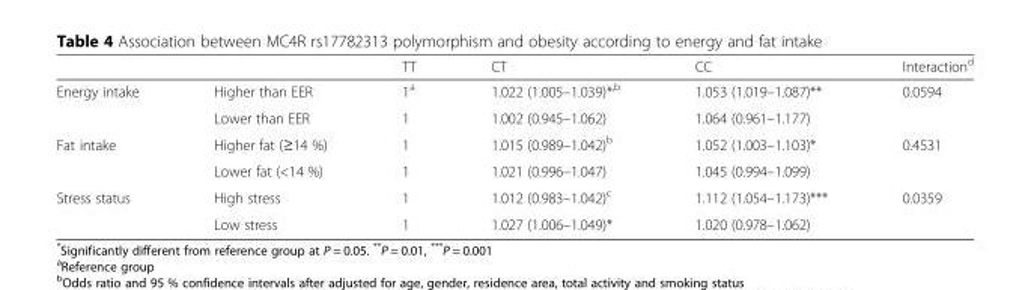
<table><thead><tr><td></td><td></td><td>TT</td><td>CT</td><td>CC</td><td>Interaction<sup>d</sup></td></tr></thead><tbody><tr><td rowspan="2">Energy intake</td><td>Higher than EER</td><td>1<sup>a</sup></td><td>1.022 (1.005–1.039)*<sup>,b</sup></td><td>1.053 (1.019–1.087)**</td><td rowspan="2">0.0594</td></tr><tr><td>Lower than EER</td><td>1</td><td>1.002 (0.945–1.062)</td><td>1.064 (0.961–1.177)</td></tr><tr><td rowspan="2">Fat intake</td><td>Higher fat (≥14 %)</td><td>1</td><td>1.015 (0.989–1.042)<sup>b</sup></td><td>1.052 (1.003–1.103)*</td><td rowspan="2">0.4531</td></tr><tr><td>Lower fat (&lt;14 %)</td><td>1</td><td>1.021 (0.996–1.047)</td><td>1.045 (0.994–1.099)</td></tr><tr><td rowspan="2">Stress status</td><td>High stress</td><td>1</td><td>1.012 (0.983–1.042)<sup>c</sup></td><td>1.112 (1.054–1.173)***</td><td rowspan="2">0.0359</td></tr><tr><td>Low stress</td><td>1</td><td>1.027 (1.006–1.049)*</td><td>1.020 (0.978–1.062)</td></tr></tbody></table>